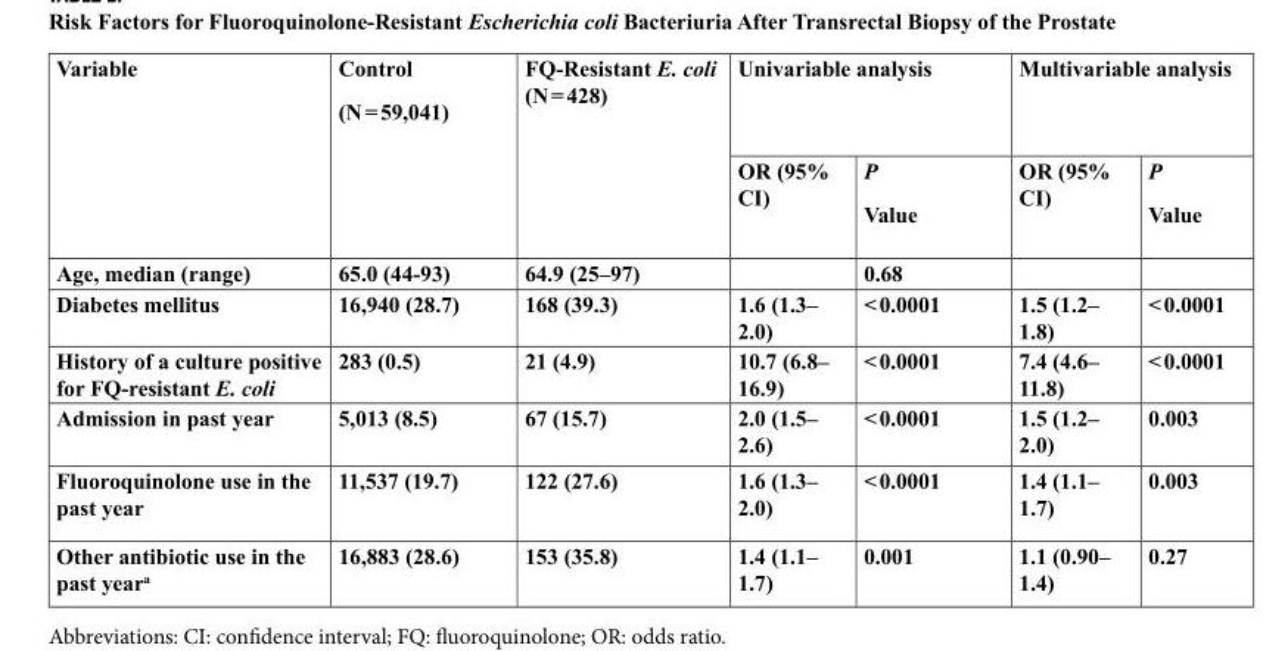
<table><thead><tr><td rowspan="2">Variable</td><td rowspan="2">Control (N = 59,041)</td><td rowspan="2">FQ-Resistant E. coli (N = 428)</td><td colspan="2">Univariable analysis</td><td colspan="2">Multivariable analysis</td></tr><tr><td>OR (95% CI)</td><td>P Value</td><td>OR (95% CI)</td><td>P Value</td></tr></thead><tbody><tr><td>Age, median (range)</td><td>65.0 (44-93)</td><td>64.9 (25–97)</td><td></td><td>0.68</td><td></td><td></td></tr><tr><td>Diabetes mellitus</td><td>16,940 (28.7)</td><td>168 (39.3)</td><td>1.6 (1.3– 2.0)</td><td>&lt; 0.0001</td><td>1.5 (1.2– 1.8)</td><td>&lt; 0.0001</td></tr><tr><td>History of a culture positive for FQ-resistant E. coli</td><td>283 (0.5)</td><td>21 (4.9)</td><td>10.7 (6.8– 16.9)</td><td>&lt; 0.0001</td><td>7.4 (4.6– 11.8)</td><td>&lt; 0.0001</td></tr><tr><td>Admission in past year</td><td>5,013 (8.5)</td><td>67 (15.7)</td><td>2.0 (1.5– 2.6)</td><td>&lt; 0.0001</td><td>1.5 (1.2– 2.0)</td><td>0.003</td></tr><tr><td>Fluoroquinolone use in the past year</td><td>11,537 (19.7)</td><td>122 (27.6)</td><td>1.6 (1.3– 2.0)</td><td>&lt; 0.0001</td><td>1.4 (1.1– 1.7)</td><td>0.003</td></tr><tr><td>Other antibiotic use in the past year<sup>a</sup></td><td>16,883 (28.6)</td><td>153 (35.8)</td><td>1.4 (1.1– 1.7)</td><td>0.001</td><td>1.1 (0.90– 1.4)</td><td>0.27</td></tr></tbody></table>